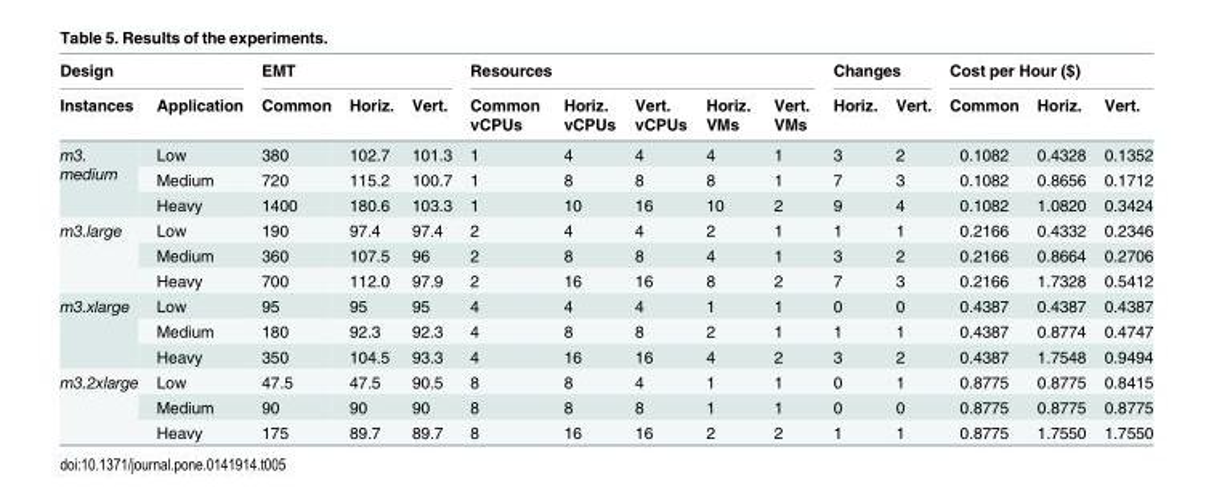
<table><thead><tr><td colspan="2">Design</td><td colspan="3">EMT</td><td colspan="5">Resources</td><td colspan="2">Changes</td><td colspan="3">Cost per Hour ($)</td></tr><tr><td>Instances</td><td>Application</td><td>Common</td><td>Horiz.</td><td>Vert.</td><td>Common vCPUs</td><td>Horiz. vCPUs</td><td>Vert. vCPUs</td><td>Horiz. VMs</td><td>Vert. VMs</td><td>Horiz.</td><td>Vert.</td><td>Common</td><td>Horiz.</td><td>Vert.</td></tr></thead><tbody><tr><td rowspan="3">m3. medium</td><td>Low</td><td>380</td><td>102.7</td><td>101.3</td><td>1</td><td>4</td><td>4</td><td>4</td><td>1</td><td>3</td><td>2</td><td>0.1082</td><td>0.4328</td><td>0.1352</td></tr><tr><td>Medium</td><td>720</td><td>115.2</td><td>100.7</td><td>1</td><td>8</td><td>8</td><td>8</td><td>1</td><td>7</td><td>3</td><td>0.1082</td><td>0.8656</td><td>0.1712</td></tr><tr><td>Heavy</td><td>1400</td><td>180.6</td><td>103.3</td><td>1</td><td>10</td><td>16</td><td>10</td><td>2</td><td>9</td><td>4</td><td>0.1082</td><td>1.0820</td><td>0.3424</td></tr><tr><td rowspan="3">m3.large</td><td>Low</td><td>190</td><td>97.4</td><td>97.4</td><td>2</td><td>4</td><td>4</td><td>2</td><td>1</td><td>1</td><td>1</td><td>0.2166</td><td>0.4332</td><td>0.2346</td></tr><tr><td>Medium</td><td>360</td><td>107.5</td><td>96</td><td>2</td><td>8</td><td>8</td><td>4</td><td>1</td><td>3</td><td>2</td><td>0.2166</td><td>0.8664</td><td>0.2706</td></tr><tr><td>Heavy</td><td>700</td><td>112.0</td><td>97.9</td><td>2</td><td>16</td><td>16</td><td>8</td><td>2</td><td>7</td><td>3</td><td>0.2166</td><td>1.7328</td><td>0.5412</td></tr><tr><td rowspan="3">m3.xlarge</td><td>Low</td><td>95</td><td>95</td><td>95</td><td>4</td><td>4</td><td>4</td><td>1</td><td>1</td><td>0</td><td>0</td><td>0.4387</td><td>0.4387</td><td>0.4387</td></tr><tr><td>Medium</td><td>180</td><td>92.3</td><td>92.3</td><td>4</td><td>8</td><td>8</td><td>2</td><td>1</td><td>1</td><td>1</td><td>0.4387</td><td>0.8774</td><td>0.4747</td></tr><tr><td>Heavy</td><td>350</td><td>104.5</td><td>93.3</td><td>4</td><td>16</td><td>16</td><td>4</td><td>2</td><td>3</td><td>2</td><td>0.4387</td><td>1.7548</td><td>0.9494</td></tr><tr><td rowspan="3">m3.2xlarge</td><td>Low</td><td>47.5</td><td>47.5</td><td>90.5</td><td>8</td><td>8</td><td>4</td><td>1</td><td>1</td><td>0</td><td>1</td><td>0.8775</td><td>0.8775</td><td>0.8415</td></tr><tr><td>Medium</td><td>90</td><td>90</td><td>90</td><td>8</td><td>8</td><td>8</td><td>1</td><td>1</td><td>0</td><td>0</td><td>0.8775</td><td>0.8775</td><td>0.8775</td></tr><tr><td>Heavy</td><td>175</td><td>89.7</td><td>89.7</td><td>8</td><td>16</td><td>16</td><td>2</td><td>2</td><td>1</td><td>1</td><td>0.8775</td><td>1.7550</td><td>1.7550</td></tr></tbody></table>